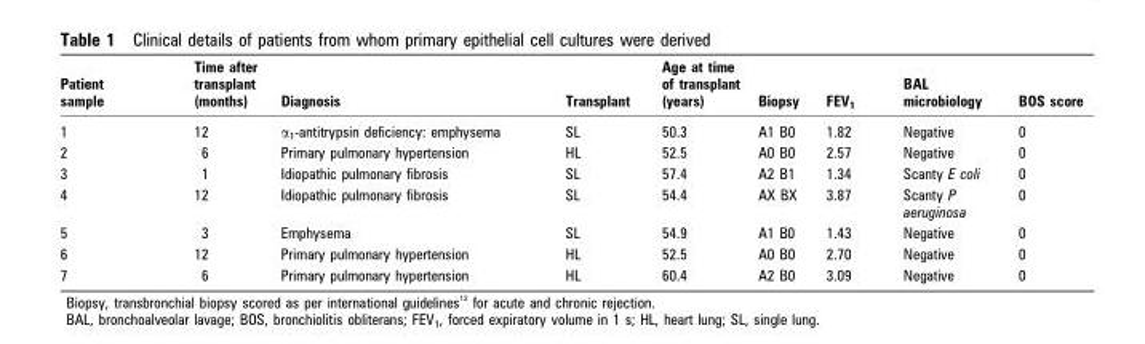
<table><thead><tr><td>Patient sample</td><td>Time after transplant (months)</td><td>Diagnosis</td><td>Transplant</td><td>Age at time of transplant (years)</td><td>Biopsy</td><td>FEV<sub>1</sub></td><td>BAL microbiology</td><td>BOS score</td></tr></thead><tbody><tr><td>1</td><td>12</td><td>α<sub>1</sub>-antitrypsin deficiency: emphysema</td><td>SL</td><td>50.3</td><td>A1 B0</td><td>1.82</td><td>Negative</td><td>0</td></tr><tr><td>2</td><td>6</td><td>Primary pulmonary hypertension</td><td>HL</td><td>52.5</td><td>A0 B0</td><td>2.57</td><td>Negative</td><td>0</td></tr><tr><td>3</td><td>1</td><td>Idiopathic pulmonary fibrosis</td><td>SL</td><td>57.4</td><td>A2 B1</td><td>1.34</td><td>Scanty E coli</td><td>0</td></tr><tr><td>4</td><td>12</td><td>Idiopathic pulmonary fibrosis</td><td>SL</td><td>54.4</td><td>AX BX</td><td>3.87</td><td>Scanty P aeruginosa</td><td>0</td></tr><tr><td>5</td><td>3</td><td>Emphysema</td><td>SL</td><td>54.9</td><td>A1 B0</td><td>1.43</td><td>Negative</td><td>0</td></tr><tr><td>6</td><td>12</td><td>Primary pulmonary hypertension</td><td>HL</td><td>52.5</td><td>A0 B0</td><td>2.70</td><td>Negative</td><td>0</td></tr><tr><td>7</td><td>6</td><td>Primary pulmonary hypertension</td><td>HL</td><td>60.4</td><td>A2 B0</td><td>3.09</td><td>Negative</td><td>0</td></tr></tbody></table>